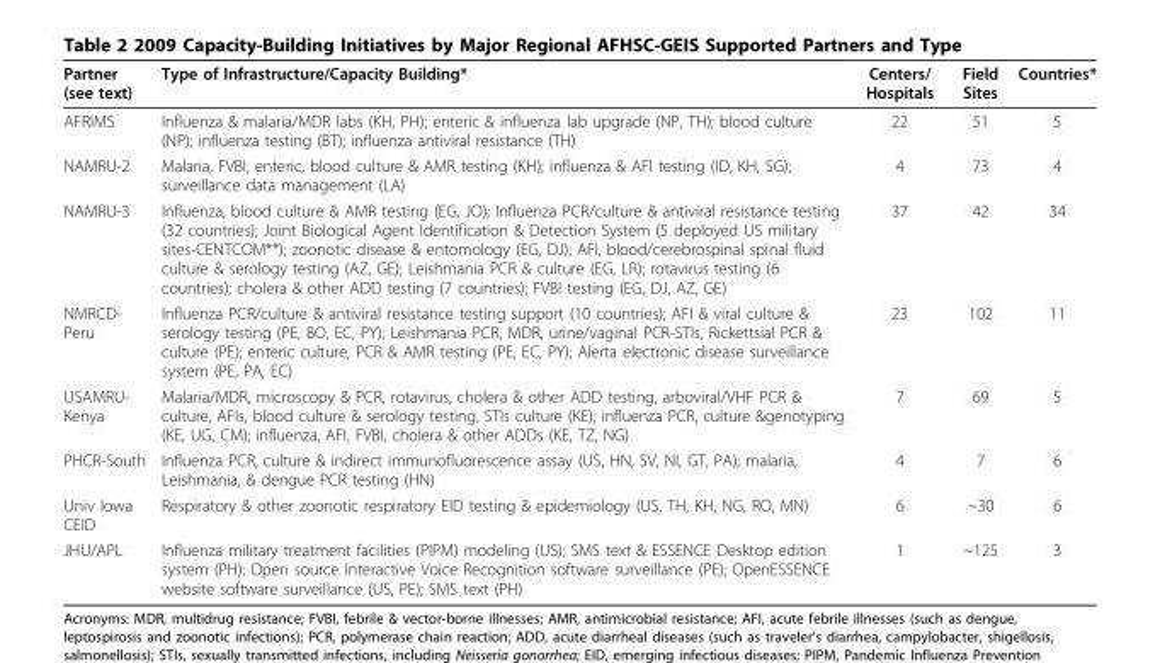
<table><thead><tr><td>Partner (see text)</td><td>Type of Infrastructure/Capacity Building*</td><td>Centers/ Hospitals</td><td>Field Sites</td><td>Countries*</td></tr></thead><tbody><tr><td>AFRIMS</td><td>Influenza &amp; malaria/MDR labs (KH, PH); enteric &amp; influenza lab upgrade (NP, TH); blood culture (NP); influenza testing (BT); influenza antiviral resistance (TH)</td><td>22</td><td>51</td><td>5</td></tr><tr><td>NAMRU-2</td><td>Malaria, FVBI, enteric, blood culture &amp; AMR testing (KH); influenza &amp; AFI testing (ID, KH, SG); surveillance data management (LA)</td><td>4</td><td>73</td><td>4</td></tr><tr><td>NAMRU-3</td><td>Influenza, blood culture &amp; AMR testing (EG, JO); Influenza PCR/culture &amp; antiviral resistance testing (32 countries); Joint Biological Agent Identification &amp; Detection System (5 deployed US military sites-CENTCOM**); zoonotic disease &amp; entomology (EG, DJ); AFI, blood/cerebrospinal spinal fluid culture &amp; serology testing (AZ, GE); Leishmania PCR &amp; culture (EG, LR); rotavirus testing (6 countries); cholera &amp; other ADD testing (7 countries); FVBI testing (EG, DJ, AZ, GE)</td><td>37</td><td>42</td><td>34</td></tr><tr><td>NMRCD- Peru</td><td>Influenza PCR/culture &amp; antiviral resistance testing support (10 countries); AFI &amp; viral culture &amp; serology testing (PE, BO, EC, PY); Leishmania PCR, MDR, urine/vaginal PCR-STIs, Rickettsial PCR &amp; culture (PE); enteric culture, PCR &amp; AMR testing (PE, EC, PY); Alerta electronic disease surveillance system (PE, PA, EC)</td><td>23</td><td>102</td><td>11</td></tr><tr><td>USAMRU- Kenya</td><td>Malaria/MDR, microscopy &amp; PCR, rotavirus, cholera &amp; other ADD testing, arboviral/VHF PCR &amp; culture, AFIs, blood culture &amp; serology testing, STIs culture (KE); influenza PCR, culture &amp;genotyping (KE, UG, CM); influenza, AFI, FVBI, cholera &amp; other ADDs (KE, TZ, NG)</td><td>7</td><td>69</td><td>5</td></tr><tr><td>PHCR-South</td><td>Influenza PCR, culture &amp; indirect immunofluorescence assay (US, HN, SV, NI, GT, PA); malaria, Leishmania, &amp; dengue PCR testing (HN)</td><td>4</td><td>7</td><td>6</td></tr><tr><td>Univ Iowa CEID</td><td>Respiratory &amp; other zoonotic respiratory EID testing &amp; epidemiology (US, TH, KH, NG, RO, MN)</td><td>6</td><td>~30</td><td>6</td></tr><tr><td>JHU/APL</td><td>Influenza military treatment facilities (PIPM) modeling (US); SMS text &amp; ESSENCE Desktop edition system (PH); Open source Interactive Voice Recognition software surveillance (PE); OpenESSENCE website software surveillance (US, PE); SMS text (PH)</td><td>1</td><td>~125</td><td>3</td></tr></tbody></table>